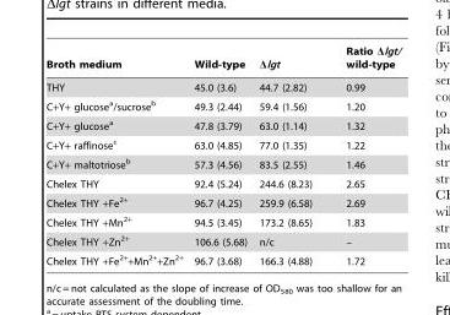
<table><thead><tr><td>Broth medium</td><td>Wild-type</td><td>Δlgt</td><td>Ratio Δlgt/ wild-type</td></tr></thead><tbody><tr><td>THY</td><td>45.0 (3.6)</td><td>44.7 (2.82)</td><td>0.99</td></tr><tr><td>C+Y+ glucose<sup>a</sup>/sucrose<sup>b</sup></td><td>49.3 (2.44)</td><td>59.4 (1.56)</td><td>1.20</td></tr><tr><td>C+Y+ glucose<sup>a</sup></td><td>47.8 (3.79)</td><td>63.0 (1.14)</td><td>1.32</td></tr><tr><td>C+Y+ raffinose<sup>c</sup></td><td>63.0 (4.85)</td><td>77.0 (1.35)</td><td>1.22</td></tr><tr><td>C+Y+ maltotriose<sup>b</sup></td><td>57.3 (4.56)</td><td>83.5 (2.55)</td><td>1.46</td></tr><tr><td>Chelex THY</td><td>92.4 (5.24)</td><td>244.6 (8.23)</td><td>2.65</td></tr><tr><td>Chelex THY +Fe<sup>2+</sup></td><td>96.7 (4.25)</td><td>259.9 (6.58)</td><td>2.69</td></tr><tr><td>Chelex THY +Mn<sup>2+</sup></td><td>94.5 (3.45)</td><td>173.2 (8.65)</td><td>1.83</td></tr><tr><td>Chelex THY +Zn<sup>2+</sup></td><td>106.6 (5.68)</td><td>n/c</td><td>–</td></tr><tr><td>Chelex THY +Fe<sup>2+</sup>+Mn<sup>2+</sup>+Zn<sup>2+</sup></td><td>96.7 (3.68)</td><td>166.3 (4.88)</td><td>1.72</td></tr></tbody></table>